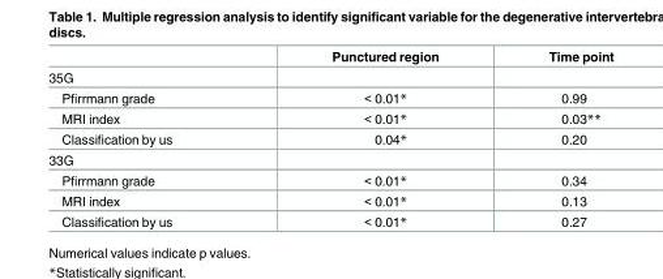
<table><thead><tr><td></td><td>Punctured region</td><td>Time point</td></tr></thead><tbody><tr><td colspan="3">35G</td></tr><tr><td>Pfirrmann grade</td><td>&lt; 0.01*</td><td>0.99</td></tr><tr><td>MRI index</td><td>&lt; 0.01*</td><td>0.03**</td></tr><tr><td>Classification by us</td><td>0.04*</td><td>0.20</td></tr><tr><td colspan="3">33G</td></tr><tr><td>Pfirrmann grade</td><td>&lt; 0.01*</td><td>0.34</td></tr><tr><td>MRI index</td><td>&lt; 0.01*</td><td>0.13</td></tr><tr><td>Classification by us</td><td>&lt; 0.01*</td><td>0.27</td></tr></tbody></table>